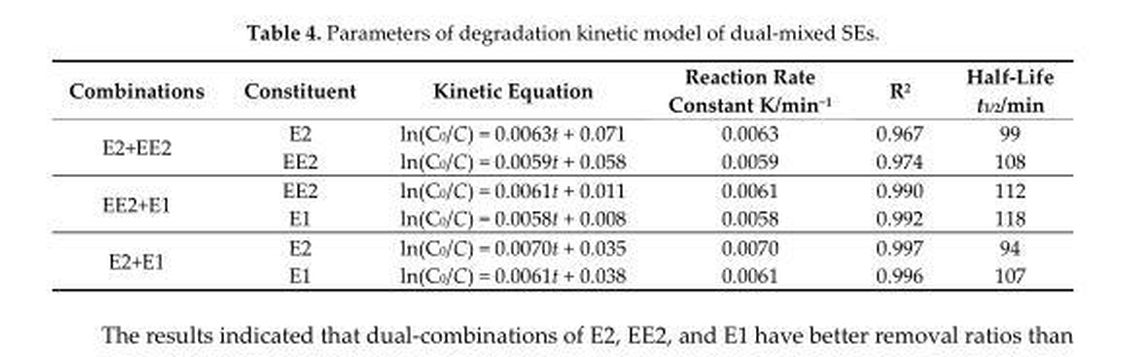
<table><thead><tr><td>Combinations</td><td>Constituent</td><td>Kinetic Equation</td><td>Reaction Rate Constant K/min<sup>−1</sup></td><td>R<sup>2</sup></td><td>Half-Life t<sub>1/2</sub>/min</td></tr></thead><tbody><tr><td rowspan="2">E2+EE2</td><td>E2</td><td>ln(C<sub>0</sub>/C) = 0.0063t + 0.071</td><td>0.0063</td><td>0.967</td><td>99</td></tr><tr><td>EE2</td><td>ln(C<sub>0</sub>/C) = 0.0059t + 0.058</td><td>0.0059</td><td>0.974</td><td>108</td></tr><tr><td rowspan="2">EE2+E1</td><td>EE2</td><td>ln(C<sub>0</sub>/C) = 0.0061t + 0.011</td><td>0.0061</td><td>0.990</td><td>112</td></tr><tr><td>E1</td><td>ln(C<sub>0</sub>/C) = 0.0058t + 0.008</td><td>0.0058</td><td>0.992</td><td>118</td></tr><tr><td rowspan="2">E2+E1</td><td>E2</td><td>ln(C<sub>0</sub>/C) = 0.0070t + 0.035</td><td>0.0070</td><td>0.997</td><td>94</td></tr><tr><td>E1</td><td>ln(C<sub>0</sub>/C) = 0.0061t + 0.038</td><td>0.0061</td><td>0.996</td><td>107</td></tr></tbody></table>